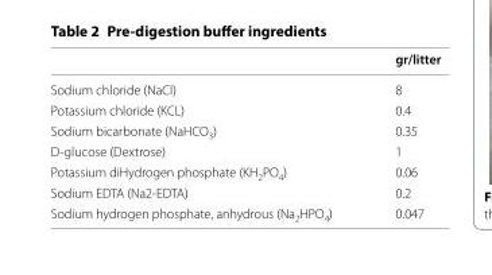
<table><thead><tr><td></td><td>gr/litter</td></tr></thead><tbody><tr><td>Sodium chloride (NaCl)</td><td>8</td></tr><tr><td>Potassium chloride (KCL)</td><td>0.4</td></tr><tr><td>Sodium bicarbonate (NaHCO<sub>3</sub>)</td><td>0.35</td></tr><tr><td>D-glucose (Dextrose)</td><td>1</td></tr><tr><td>Potassium diHydrogen phosphate (KH<sub>2</sub>PO<sub>4</sub>)</td><td>0.06</td></tr><tr><td>Sodium EDTA (Na2-EDTA)</td><td>0.2</td></tr><tr><td>Sodium hydrogen phosphate, anhydrous (Na<sub>2</sub>HPO<sub>4</sub>)</td><td>0.047</td></tr></tbody></table>